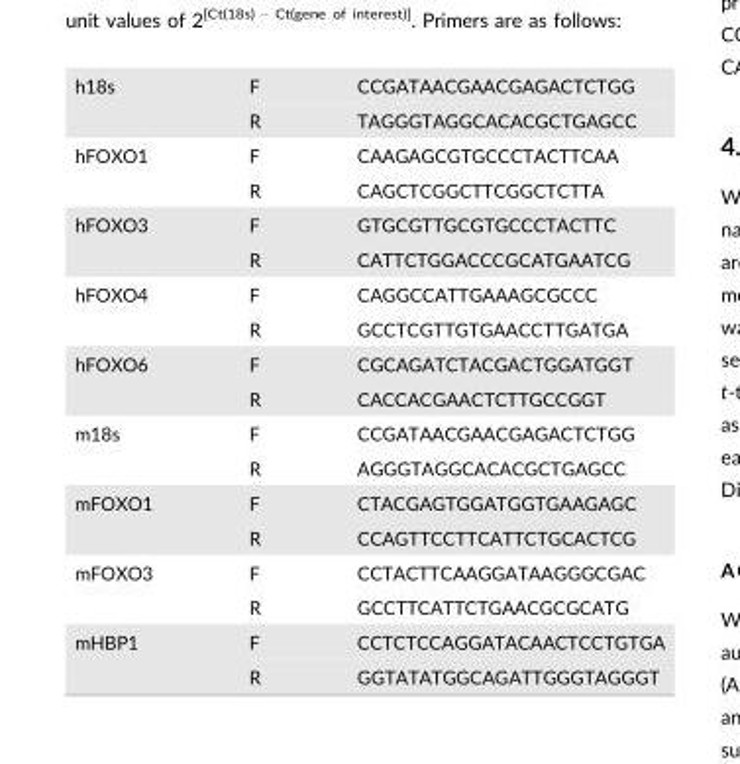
<table><tbody><tr><td rowspan="2">h18s</td><td>F</td><td>CCGATAACGAACGAGACTCTGG</td></tr><tr><td>R</td><td>TAGGGTAGGCACACGCTGAGCC</td></tr><tr><td rowspan="2">hFOXO1</td><td>F</td><td>CAAGAGCGTGCCCTACTTCAA</td></tr><tr><td>R</td><td>CAGCTCGGCTTCGGCTCTTA</td></tr><tr><td rowspan="2">hFOXO3</td><td>F</td><td>GTGCGTTGCGTGCCCTACTTC</td></tr><tr><td>R</td><td>CATTCTGGACCCGCATGAATCG</td></tr><tr><td rowspan="2">hFOXO4</td><td>F</td><td>CAGGCCATTGAAAGCGCCC</td></tr><tr><td>R</td><td>GCCTCGTTGTGAACCTTGATGA</td></tr><tr><td rowspan="2">hFOXO6</td><td>F</td><td>CGCAGATCTACGACTGGATGGT</td></tr><tr><td>R</td><td>CACCACGAACTCTTGCCGGT</td></tr><tr><td rowspan="2">m18s</td><td>F</td><td>CCGATAACGAACGAGACTCTGG</td></tr><tr><td>R</td><td>AGGGTAGGCACACGCTGAGCC</td></tr><tr><td rowspan="2">mFOXO1</td><td>F</td><td>CTACGAGTGGATGGTGAAGAGC</td></tr><tr><td>R</td><td>CCAGTTCCTTCATTCTGCACTCG</td></tr><tr><td rowspan="2">mFOXO3</td><td>F</td><td>CCTACTTCAAGGATAAGGGCGAC</td></tr><tr><td>R</td><td>GCCTTCATTCTGAACGCGCATG</td></tr><tr><td rowspan="2">mHBP1</td><td>F</td><td>CCTCTCCAGGATACAACTCCTGTGA</td></tr><tr><td>R</td><td>GGTATATGGCAGATTGGGTAGGGT</td></tr></tbody></table>